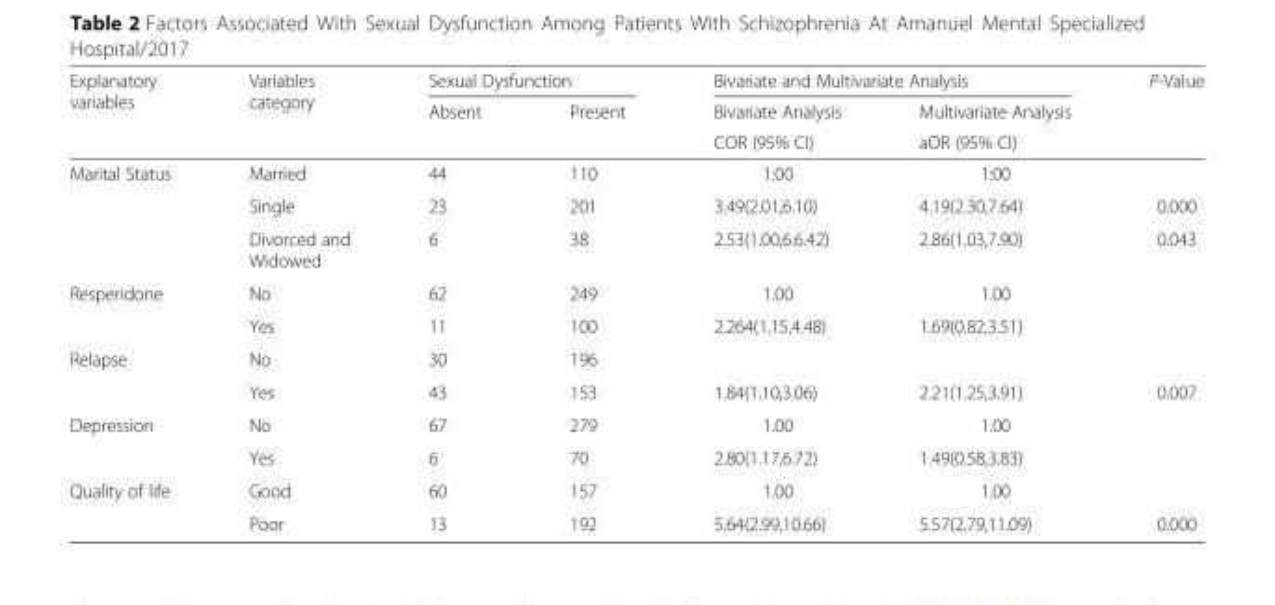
<table><thead><tr><td rowspan="3">Explanatory variables</td><td rowspan="3">Variables category</td><td colspan="2">Sexual Dysfunction</td><td colspan="2">Bivariate and Multivariate Analysis</td><td rowspan="3">P-Value</td></tr><tr><td rowspan="2">Absent</td><td rowspan="2">Present</td><td rowspan="2">Bivariate Analysis COR (95% CI)</td><td rowspan="2">Multivariate Analysis aOR (95% CI)</td></tr><tr></tr></thead><tbody><tr><td rowspan="3">Marital Status</td><td>Married</td><td>44</td><td>110</td><td>1:00</td><td>1:00</td><td></td></tr><tr><td>Single</td><td>23</td><td>201</td><td>3.49(2.01,6.10)</td><td>4.19(2.30,7.64)</td><td>0.000</td></tr><tr><td>Divorced and Widowed</td><td>6</td><td>38</td><td>2.53(1.00,6.6.42)</td><td>2.86(1.03,7.90)</td><td>0.043</td></tr><tr><td rowspan="2">Resperidone</td><td>No</td><td>62</td><td>249</td><td>1.00</td><td>1.00</td><td></td></tr><tr><td>Yes</td><td>11</td><td>100</td><td>2.264(1.15,4.48)</td><td>1.69(0.82,3.51)</td><td></td></tr><tr><td rowspan="2">Relapse</td><td>No</td><td>30</td><td>196</td><td></td><td></td><td></td></tr><tr><td>Yes</td><td>43</td><td>153</td><td>1.84(1.10,3.06)</td><td>2.21(1.25,3.91)</td><td>0.007</td></tr><tr><td rowspan="2">Depression</td><td>No</td><td>67</td><td>279</td><td>1.00</td><td>1.00</td><td></td></tr><tr><td>Yes</td><td>6</td><td>70</td><td>2.80(1.17,6.72)</td><td>1.49(0.58,3.83)</td><td></td></tr><tr><td rowspan="2">Quality of life</td><td>Good</td><td>60</td><td>157</td><td>1.00</td><td>1.00</td><td></td></tr><tr><td>Poor</td><td>13</td><td>192</td><td>5.64(2.99,10.66)</td><td>5.57(2.79,11.09)</td><td>0.000</td></tr></tbody></table>